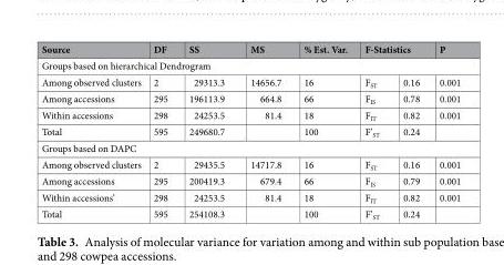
<table><thead><tr><td>Source</td><td>DF</td><td>SS</td><td>MS</td><td>% Est. Var.</td><td colspan="2">F-Statistics</td><td>P</td></tr><tr><td colspan="8">Groups based on hierarchical Dendrogram</td></tr><tr><td>Among observed clusters</td><td>2</td><td>29313.3</td><td>14656.7</td><td>16</td><td>F<sub>ST</sub></td><td>0.16</td><td>0.001</td></tr></thead><tbody><tr><td>Among accessions</td><td>295</td><td>196113.9</td><td>664.8</td><td>66</td><td>F<sub>IS</sub></td><td>0.78</td><td>0.001</td></tr><tr><td>Within accessions</td><td>298</td><td>24253.5</td><td>81.4</td><td>18</td><td>F<sub>IT</sub></td><td>0.82</td><td>0.001</td></tr><tr><td>Total</td><td>595</td><td>249680.7</td><td></td><td>100</td><td>F’<sub>ST</sub></td><td>0.24</td><td></td></tr><tr><td colspan="8">Groups based on DAPC</td></tr><tr><td>Among observed clusters</td><td>2</td><td>29435.5</td><td>14717.8</td><td>16</td><td>F<sub>ST</sub></td><td>0.16</td><td>0.001</td></tr><tr><td>Among accessions</td><td>295</td><td>200419.3</td><td>679.4</td><td>66</td><td>F<sub>IS</sub></td><td>0.79</td><td>0.001</td></tr><tr><td>Within accessions’</td><td>298</td><td>24253.5</td><td>81.4</td><td>18</td><td>F<sub>IT</sub></td><td>0.82</td><td>0.001</td></tr><tr><td>Total</td><td>595</td><td>254108.3</td><td></td><td>100</td><td>F’<sub>ST</sub></td><td>0.24</td><td></td></tr></tbody></table>